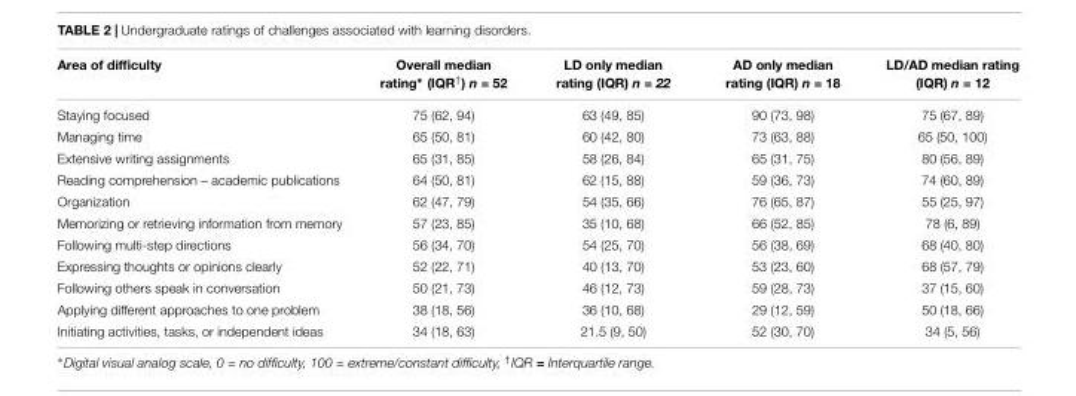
<table><thead><tr><td>Area of difficulty</td><td>Overall median rating∗ (IQR<sup>†</sup>) n = 52</td><td>LD only median rating (IQR) n = 22</td><td>AD only median rating (IQR) n = 18</td><td>LD/AD median rating (IQR) n = 12</td></tr></thead><tbody><tr><td>Staying focused</td><td>75 (62, 94)</td><td>63 (49, 85)</td><td>90 (73, 98)</td><td>75 (67, 89)</td></tr><tr><td>Managing time</td><td>65 (50, 81)</td><td>60 (42, 80)</td><td>73 (63, 88)</td><td>65 (50, 100)</td></tr><tr><td>Extensive writing assignments</td><td>65 (31, 85)</td><td>58 (26, 84)</td><td>65 (31, 75)</td><td>80 (56, 89)</td></tr><tr><td>Reading comprehension – academic publications</td><td>64 (50, 81)</td><td>62 (15, 88)</td><td>59 (36, 73)</td><td>74 (60, 89)</td></tr><tr><td>Organization</td><td>62 (47, 79)</td><td>54 (35, 66)</td><td>76 (65, 87)</td><td>55 (25, 97)</td></tr><tr><td>Memorizing or retrieving information from memory</td><td>57 (23, 85)</td><td>35 (10, 68)</td><td>66 (52, 85)</td><td>78 (6, 89)</td></tr><tr><td>Following multi-step directions</td><td>56 (34, 70)</td><td>54 (25, 70)</td><td>56 (38, 69)</td><td>68 (40, 80)</td></tr><tr><td>Expressing thoughts or opinions clearly</td><td>52 (22, 71)</td><td>40 (13, 70)</td><td>53 (23, 60)</td><td>68 (57, 79)</td></tr><tr><td>Following others speak in conversation</td><td>50 (21, 73)</td><td>46 (12, 73)</td><td>59 (28, 73)</td><td>37 (15, 60)</td></tr><tr><td>Applying different approaches to one problem</td><td>38 (18, 56)</td><td>36 (10, 68)</td><td>29 (12, 59)</td><td>50 (18, 66)</td></tr><tr><td>Initiating activities, tasks, or independent ideas</td><td>34 (18, 63)</td><td>21.5 (9, 50)</td><td>52 (30, 70)</td><td>34 (5, 56)</td></tr></tbody></table>